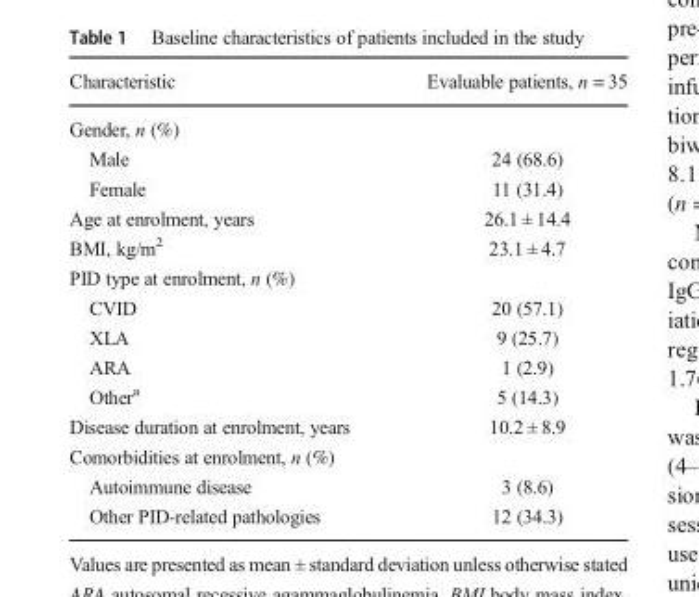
<table><thead><tr><td>Characteristic</td><td>Evaluable patients, n = 35</td></tr></thead><tbody><tr><td colspan="2">Gender, n (%)</td></tr><tr><td>Male</td><td>24 (68.6)</td></tr><tr><td>Female</td><td>11 (31.4)</td></tr><tr><td>Age at enrolment, years</td><td>26.1 ± 14.4</td></tr><tr><td>BMI, kg/m<sup>2</sup></td><td>23.1 ± 4.7</td></tr><tr><td colspan="2">PID type at enrolment, n (%)</td></tr><tr><td>CVID</td><td>20 (57.1)</td></tr><tr><td>XLA</td><td>9 (25.7)</td></tr><tr><td>ARA</td><td>1 (2.9)</td></tr><tr><td>Other<sup>a</sup></td><td>5 (14.3)</td></tr><tr><td>Disease duration at enrolment, years</td><td>10.2 ± 8.9</td></tr><tr><td colspan="2">Comorbidities at enrolment, n (%)</td></tr><tr><td>Autoimmune disease</td><td>3 (8.6)</td></tr><tr><td>Other PID-related pathologies</td><td>12 (34.3)</td></tr></tbody></table>